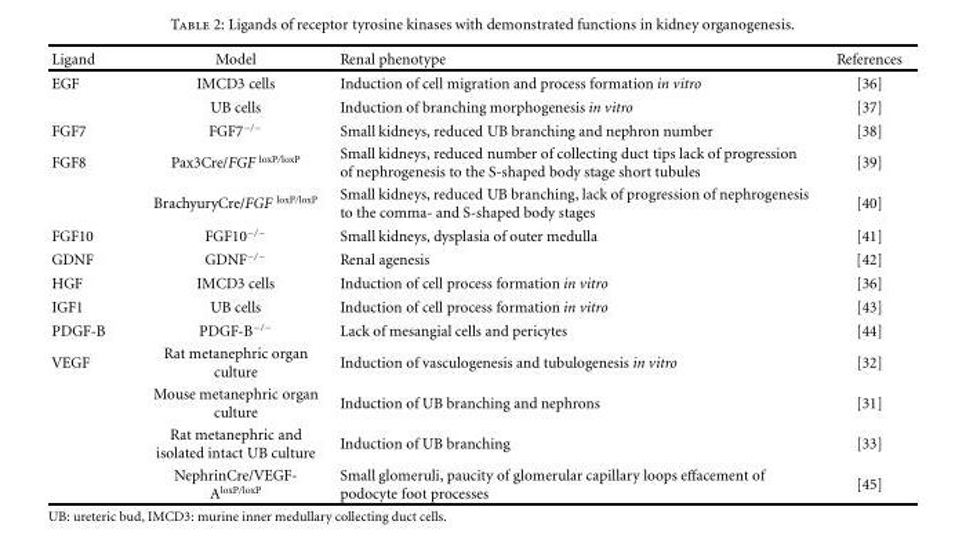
<table><thead><tr><td>Ligand</td><td>Model</td><td>Renal phenotype</td><td>References</td></tr></thead><tbody><tr><td rowspan="2">EGF</td><td>IMCD3 cells</td><td>Induction of cell migration and process formation in vitro</td><td>[36]</td></tr><tr><td>UB cells</td><td>Induction of branching morphogenesis in vitro</td><td>[37]</td></tr><tr><td>FGF7</td><td>FGF7<sup>−/−</sup></td><td>Small kidneys, reduced UB branching and nephron number</td><td>[38]</td></tr><tr><td rowspan="2">FGF8</td><td>Pax3Cre/FGF <sup>loxP/loxP</sup></td><td>Small kidneys, reduced number of collecting duct tips lack of progression of nephrogenesis to the S-shaped body stage short tubules</td><td>[39]</td></tr><tr><td>BrachyuryCre/FGF <sup>loxP/loxP</sup></td><td>Small kidneys, reduced UB branching, lack of progression of nephrogenesis to the comma- and S-shaped body stages</td><td>[40]</td></tr><tr><td>FGF10</td><td>FGF10<sup>−/−</sup></td><td>Small kidneys, dysplasia of outer medulla</td><td>[41]</td></tr><tr><td>GDNF</td><td>GDNF<sup>−/−</sup></td><td>Renal agenesis</td><td>[42]</td></tr><tr><td>HGF</td><td>IMCD3 cells</td><td>Induction of cell process formation in vitro</td><td>[36]</td></tr><tr><td>IGF1</td><td>UB cells</td><td>Induction of cell process formation in vitro</td><td>[43]</td></tr><tr><td>PDGF-B</td><td>PDGF-B<sup>−/−</sup></td><td>Lack of mesangial cells and pericytes</td><td>[44]</td></tr><tr><td rowspan="4">VEGF</td><td>Rat metanephric organ culture</td><td>Induction of vasculogenesis and tubulogenesis in vitro</td><td>[32]</td></tr><tr><td>Mouse metanephric organ culture</td><td>Induction of UB branching and nephrons</td><td>[31]</td></tr><tr><td>Rat metanephric and isolated intact UB culture</td><td>Induction of UB branching</td><td>[33]</td></tr><tr><td>NephrinCre/VEGF- A<sup>loxP/loxP</sup></td><td>Small glomeruli, paucity of glomerular capillary loops effacement of podocyte foot processes</td><td>[45]</td></tr></tbody></table>